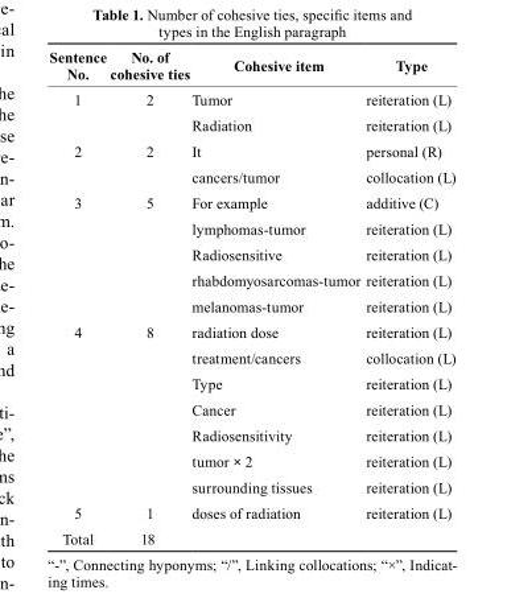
<table><thead><tr><td>sentence no.</td><td>no. of cohesive ties</td><td>cohesive item</td><td>type</td></tr></thead><tbody><tr><td rowspan="2">1</td><td rowspan="2">2</td><td>Tumor</td><td>reiteration (L)</td></tr><tr><td>Radiation</td><td>reiteration (L)</td></tr><tr><td rowspan="2">2</td><td rowspan="2">2</td><td>It</td><td>personal (R)</td></tr><tr><td>cancers/tumor</td><td>collocation (L)</td></tr><tr><td rowspan="5">3</td><td rowspan="5">5</td><td>For example</td><td>additive (C)</td></tr><tr><td>lymphomas-tumor</td><td>reiteration (L)</td></tr><tr><td>Radiosensitive</td><td>reiteration (L)</td></tr><tr><td>rhabdomyosarcomas-tumor</td><td>reiteration (L)</td></tr><tr><td>melanomas-tumor</td><td>reiteration (L)</td></tr><tr><td rowspan="7">4</td><td rowspan="7">8</td><td>radiation dose</td><td>reiteration (L)</td></tr><tr><td>treatment/cancers</td><td>collocation (L)</td></tr><tr><td>Type</td><td>reiteration (L)</td></tr><tr><td>Cancer</td><td>reiteration (L)</td></tr><tr><td>Radiosensitivity</td><td>reiteration (L)</td></tr><tr><td>tumor × 2</td><td>reiteration (L)</td></tr><tr><td>surrounding tissues</td><td>reiteration (L)</td></tr><tr><td>5</td><td>1</td><td>doses of radiation</td><td>reiteration (L)</td></tr><tr><td>Total</td><td>18</td><td></td><td></td></tr></tbody></table>